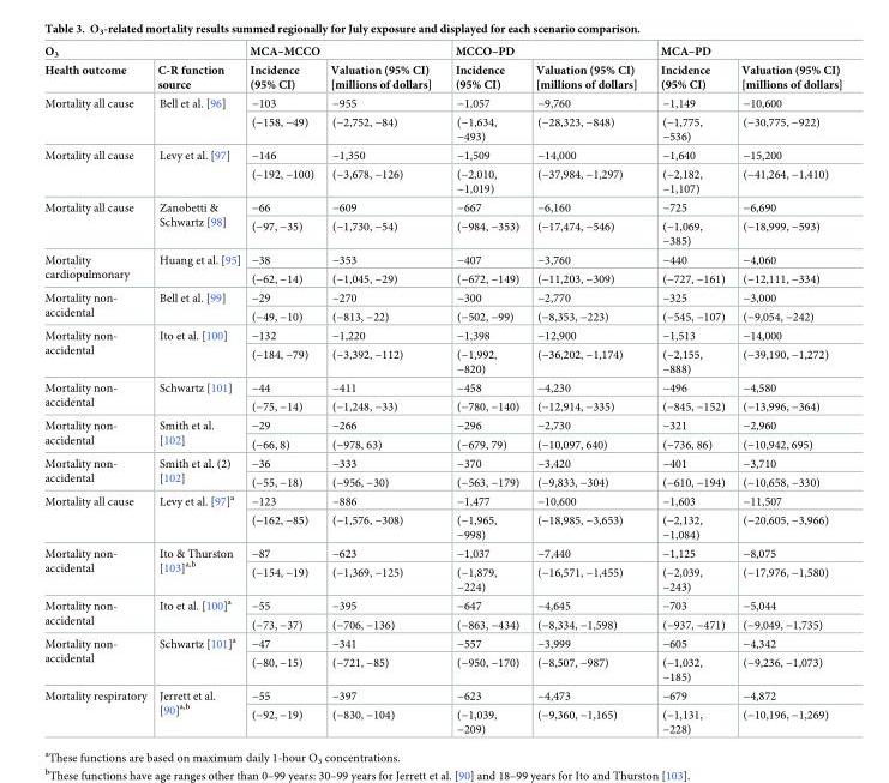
<table><thead><tr><td colspan="2">O<sub>3</sub></td><td colspan="2">MCA–MCCO</td><td colspan="2">MCCO–PD</td><td colspan="2">MCA–PD</td></tr><tr><td>Health outcome</td><td>C-R function source</td><td>Incidence (95% CI)</td><td>Valuation (95% CI) [millions of dollars]</td><td>Incidence (95% CI)</td><td>Valuation (95% CI) [millions of dollars]</td><td>Incidence (95% CI)</td><td>Valuation (95% CI) [millions of dollars]</td></tr></thead><tbody><tr><td rowspan="2">Mortality all cause</td><td rowspan="2">Bell et al. [96]</td><td>−103</td><td>−955</td><td>−1,057</td><td>−9,760</td><td>−1,149</td><td>−10,600</td></tr><tr><td>(−158, −49)</td><td>(−2,752, −84)</td><td>(−1,634, −493)</td><td>(−28,323, −848)</td><td>(−1,775, −536)</td><td>(−30,775, −922)</td></tr><tr><td rowspan="2">Mortality all cause</td><td rowspan="2">Levy et al. [97]</td><td>−146</td><td>−1,350</td><td>−1,509</td><td>−14,000</td><td>−1,640</td><td>−15,200</td></tr><tr><td>(−192, −100)</td><td>(−3,678, −126)</td><td>(−2,010, −1,019)</td><td>(−37,984, −1,297)</td><td>(−2,182, −1,107)</td><td>(−41,264, −1,410)</td></tr><tr><td rowspan="2">Mortality all cause</td><td rowspan="2">Zanobetti &amp; Schwartz [98]</td><td>−66</td><td>−609</td><td>−667</td><td>−6,160</td><td>−725</td><td>−6,690</td></tr><tr><td>(−97, −35)</td><td>(−1,730, −54)</td><td>(−984, −353)</td><td>(−17,474, −546)</td><td>(−1,069, −385)</td><td>(−18,999, −593)</td></tr><tr><td rowspan="2">Mortality cardiopulmonary</td><td rowspan="2">Huang et al. [95]</td><td>−38</td><td>−353</td><td>−407</td><td>−3,760</td><td>−440</td><td>−4,060</td></tr><tr><td>(−62, −14)</td><td>(−1,045, −29)</td><td>(−672, −149)</td><td>(−11,203, −309)</td><td>(−727, −161)</td><td>(−12,111, −334)</td></tr><tr><td rowspan="2">Mortality non- accidental</td><td rowspan="2">Bell et al. [99]</td><td>−29</td><td>−270</td><td>−300</td><td>−2,770</td><td>−325</td><td>−3,000</td></tr><tr><td>(−49, −10)</td><td>(−813, −22)</td><td>(−502, −99)</td><td>(−8,353, −223)</td><td>(−545, −107)</td><td>(−9,054, −242)</td></tr><tr><td rowspan="2">Mortality non- accidental</td><td rowspan="2">Ito et al. [100]</td><td>−132</td><td>−1,220</td><td>−1,398</td><td>−12,900</td><td>−1,513</td><td>−14,000</td></tr><tr><td>(−184, −79)</td><td>(−3,392, −112)</td><td>(−1,992, −820)</td><td>(−36,202, −1,174)</td><td>(−2,155, −888)</td><td>(−39,190, −1,272)</td></tr><tr><td rowspan="2">Mortality non- accidental</td><td rowspan="2">Schwartz [101]</td><td>−44</td><td>−411</td><td>−458</td><td>−4,230</td><td>−496</td><td>−4,580</td></tr><tr><td>(−75, −14)</td><td>(−1,248, −33)</td><td>(−780, −140)</td><td>(−12,914, −335)</td><td>(−845, −152)</td><td>(−13,996, −364)</td></tr><tr><td rowspan="2">Mortality non- accidental</td><td rowspan="2">Smith et al. [102]</td><td>−29</td><td>−266</td><td>−296</td><td>−2,730</td><td>−321</td><td>−2,960</td></tr><tr><td>(−66, 8)</td><td>(−978, 63)</td><td>(−679, 79)</td><td>(−10,097, 640)</td><td>(−736, 86)</td><td>(−10,942, 695)</td></tr><tr><td rowspan="2">Mortality non- accidental</td><td rowspan="2">Smith et al. (2) [102]</td><td>−36</td><td>−333</td><td>−370</td><td>−3,420</td><td>−401</td><td>−3,710</td></tr><tr><td>(−55, −18)</td><td>(−956, −30)</td><td>(−563, −179)</td><td>(−9,833, −304)</td><td>(−610, −194)</td><td>(−10,658, −330)</td></tr><tr><td rowspan="2">Mortality all cause</td><td rowspan="2">Levy et al. [97]<sup>a</sup></td><td>−123</td><td>−886</td><td>−1,477</td><td>−10,600</td><td>−1,603</td><td>−11,507</td></tr><tr><td>(−162, −85)</td><td>(−1,576, −308)</td><td>(−1,965, −998)</td><td>(−18,985, −3,653)</td><td>(−2,132, −1,084)</td><td>(−20,605, −3,966)</td></tr><tr><td rowspan="2">Mortality non- accidental</td><td rowspan="2">Ito &amp; Thurston [103]<sup>a,b</sup></td><td>−87</td><td>−623</td><td>−1,037</td><td>−7,440</td><td>−1,125</td><td>−8,075</td></tr><tr><td>(−154, −19)</td><td>(−1,369, −125)</td><td>(−1,879, −224)</td><td>(−16,571, −1,455)</td><td>(−2,039, −243)</td><td>(−17,976, −1,580)</td></tr><tr><td rowspan="2">Mortality non- accidental</td><td rowspan="2">Ito et al. [100]<sup>a</sup></td><td>−55</td><td>−395</td><td>−647</td><td>−4,645</td><td>−703</td><td>−5,044</td></tr><tr><td>(−73, −37)</td><td>(−706, −136)</td><td>(−863, −434)</td><td>(−8,334, −1,598)</td><td>(−937, −471)</td><td>(−9,049, −1,735)</td></tr><tr><td rowspan="2">Mortality non- accidental</td><td rowspan="2">Schwartz [101]<sup>a</sup></td><td>−47</td><td>−341</td><td>−557</td><td>−3,999</td><td>−605</td><td>−4,342</td></tr><tr><td>(−80, −15)</td><td>(−721, −85)</td><td>(−950, −170)</td><td>(−8,507, −987)</td><td>(−1,032, −185)</td><td>(−9,236, −1,073)</td></tr><tr><td rowspan="2">Mortality respiratory</td><td rowspan="2">Jerrett et al. [90]<sup>a,b</sup></td><td>−55</td><td>−397</td><td>−623</td><td>−4,473</td><td>−679</td><td>−4,872</td></tr><tr><td>(−92, −19)</td><td>(−830, −104)</td><td>(−1,039, −209)</td><td>(−9,360, −1,165)</td><td>(−1,131, −228)</td><td>(−10,196, −1,269)</td></tr></tbody></table>